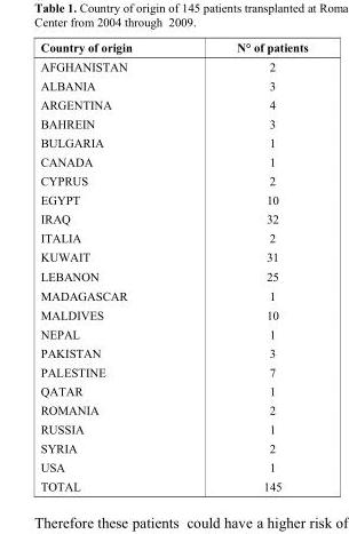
<table><thead><tr><td>Country of origin</td><td>N° of patients</td></tr></thead><tbody><tr><td>AFGHANISTAN</td><td>2</td></tr><tr><td>ALBANIA</td><td>3</td></tr><tr><td>ARGENTINA</td><td>4</td></tr><tr><td>BAHREIN</td><td>3</td></tr><tr><td>BULGARIA</td><td>1</td></tr><tr><td>CANADA</td><td>1</td></tr><tr><td>CYPRUS</td><td>2</td></tr><tr><td>EGYPT</td><td>10</td></tr><tr><td>IRAQ</td><td>32</td></tr><tr><td>ITALIA</td><td>2</td></tr><tr><td>KUWAIT</td><td>31</td></tr><tr><td>LEBANON</td><td>25</td></tr><tr><td>MADAGASCAR</td><td>1</td></tr><tr><td>MALDIVES</td><td>10</td></tr><tr><td>NEPAL</td><td>1</td></tr><tr><td>PAKISTAN</td><td>3</td></tr><tr><td>PALESTINE</td><td>7</td></tr><tr><td>QATAR</td><td>1</td></tr><tr><td>ROMANIA</td><td>2</td></tr><tr><td>RUSSIA</td><td>1</td></tr><tr><td>SYRIA</td><td>2</td></tr><tr><td>USA</td><td>1</td></tr><tr><td>TOTAL</td><td>145</td></tr></tbody></table>